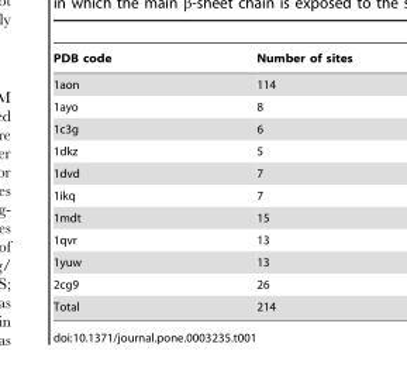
<table><thead><tr><td>PDB code</td><td>Number of sites</td></tr></thead><tbody><tr><td>1aon</td><td>114</td></tr><tr><td>1ayo</td><td>8</td></tr><tr><td>1c3g</td><td>6</td></tr><tr><td>1dkz</td><td>5</td></tr><tr><td>1dvd</td><td>7</td></tr><tr><td>1ikq</td><td>7</td></tr><tr><td>1mdt</td><td>15</td></tr><tr><td>1qvr</td><td>13</td></tr><tr><td>1yuw</td><td>13</td></tr><tr><td>2cg9</td><td>26</td></tr><tr><td>Total</td><td>214</td></tr></tbody></table>